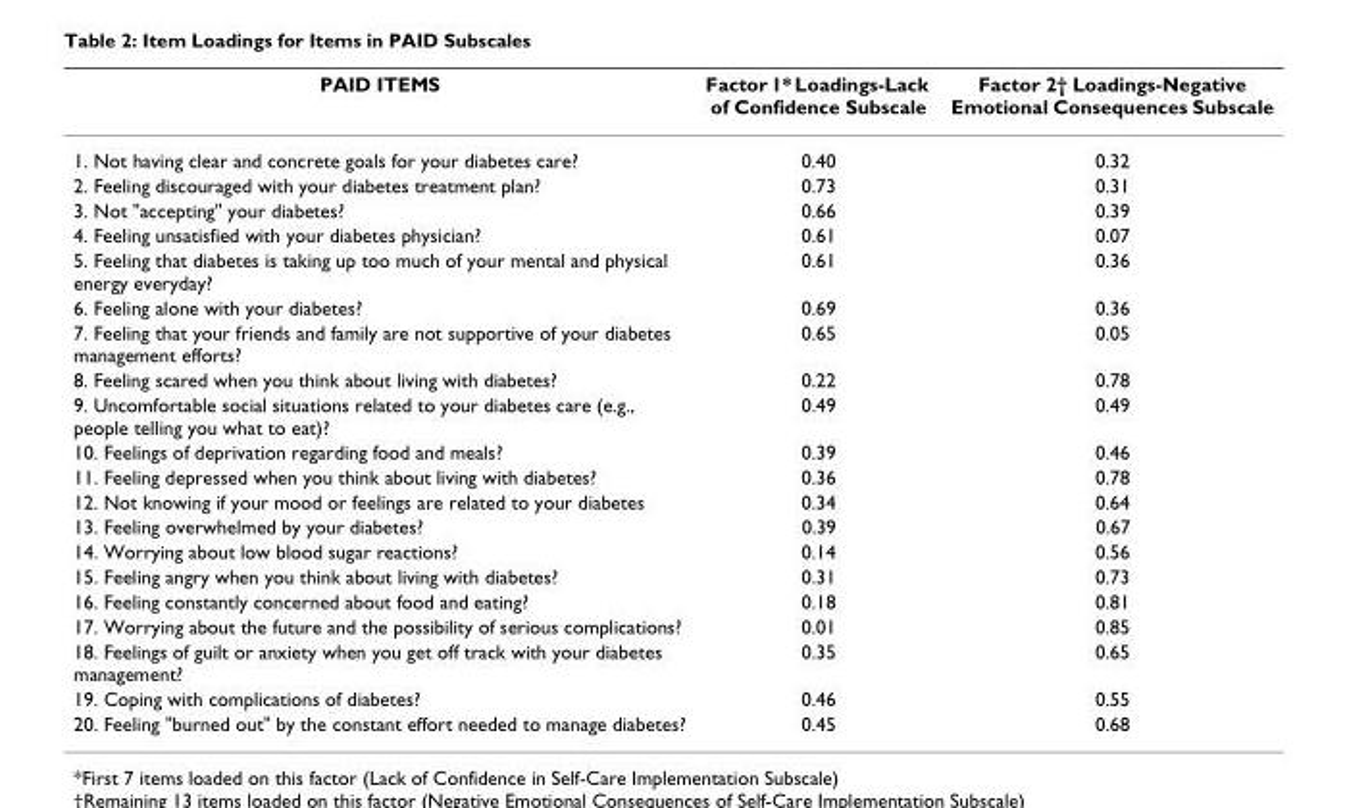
<table><thead><tr><td>PAID ITEMS</td><td>Factor 1* Loadings-Lack of Confidence Subscale</td><td>Factor 2† Loadings-Negative Emotional Consequences Subscale</td></tr></thead><tbody><tr><td>1. Not having clear and concrete goals for your diabetes care?</td><td>0.40</td><td>0.32</td></tr><tr><td>2. Feeling discouraged with your diabetes treatment plan?</td><td>0.73</td><td>0.31</td></tr><tr><td>3. Not &quot;accepting&quot; your diabetes?</td><td>0.66</td><td>0.39</td></tr><tr><td>4. Feeling unsatisfied with your diabetes physician?</td><td>0.61</td><td>0.07</td></tr><tr><td>5. Feeling that diabetes is taking up too much of your mental and physical energy everyday?</td><td>0.61</td><td>0.36</td></tr><tr><td>6. Feeling alone with your diabetes?</td><td>0.69</td><td>0.36</td></tr><tr><td>7. Feeling that your friends and family are not supportive of your diabetes management efforts?</td><td>0.65</td><td>0.05</td></tr><tr><td>8. Feeling scared when you think about living with diabetes?</td><td>0.22</td><td>0.78</td></tr><tr><td>9. Uncomfortable social situations related to your diabetes care (e.g., people telling you what to eat)?</td><td>0.49</td><td>0.49</td></tr><tr><td>10. Feelings of deprivation regarding food and meals?</td><td>0.39</td><td>0.46</td></tr><tr><td>11. Feeling depressed when you think about living with diabetes?</td><td>0.36</td><td>0.78</td></tr><tr><td>12. Not knowing if your mood or feelings are related to your diabetes</td><td>0.34</td><td>0.64</td></tr><tr><td>13. Feeling overwhelmed by your diabetes?</td><td>0.39</td><td>0.67</td></tr><tr><td>14. Worrying about low blood sugar reactions?</td><td>0.14</td><td>0.56</td></tr><tr><td>15. Feeling angry when you think about living with diabetes?</td><td>0.31</td><td>0.73</td></tr><tr><td>16. Feeling constantly concerned about food and eating?</td><td>0.18</td><td>0.81</td></tr><tr><td>17. Worrying about the future and the possibility of serious complications?</td><td>0.01</td><td>0.85</td></tr><tr><td>18. Feelings of guilt or anxiety when you get off track with your diabetes management?</td><td>0.35</td><td>0.65</td></tr><tr><td>19. Coping with complications of diabetes?</td><td>0.46</td><td>0.55</td></tr><tr><td>20. Feeling &quot;burned out&quot; by the constant effort needed to manage diabetes?</td><td>0.45</td><td>0.68</td></tr></tbody></table>